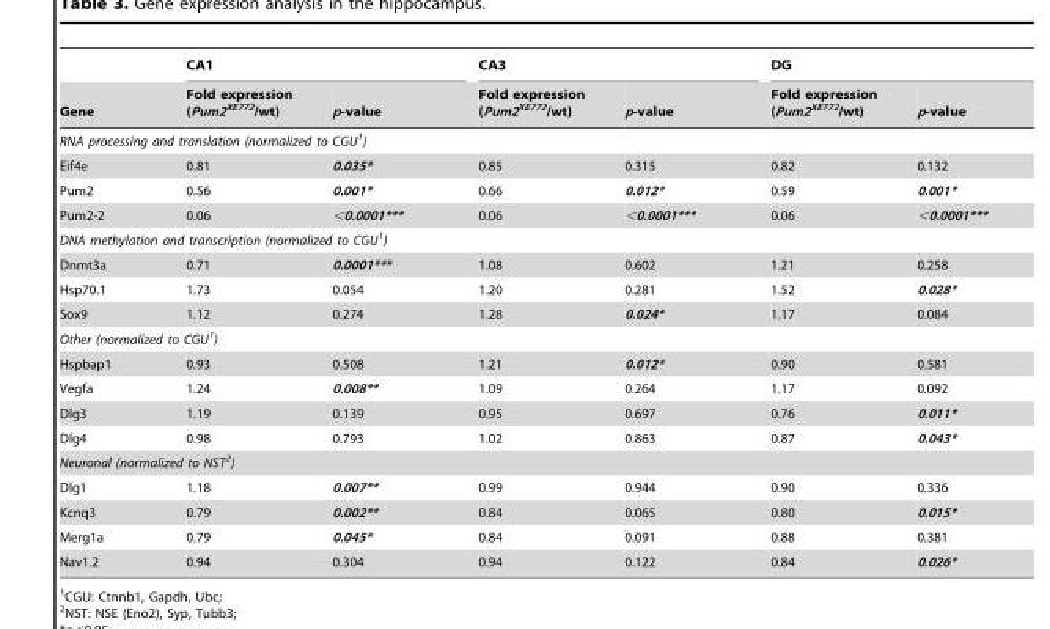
<table><thead><tr><td rowspan="2">Gene</td><td colspan="2">CA1</td><td colspan="2">CA3</td><td colspan="2">DG</td></tr><tr><td>Fold expression (Pum2<sup>XE772</sup>/wt)</td><td>p-value</td><td>Fold expression (Pum2<sup>XE772</sup>/wt)</td><td>p-value</td><td>Fold expression (Pum2<sup>XE772</sup>/wt)</td><td>p-value</td></tr></thead><tbody><tr><td colspan="7">RNA processing and translation (normalized to CGU1)</td></tr><tr><td>Eif4e</td><td>0.81</td><td>0.035*</td><td>0.85</td><td>0.315</td><td>0.82</td><td>0.132</td></tr><tr><td>Pum2</td><td>0.56</td><td>0.001*</td><td>0.66</td><td>0.012*</td><td>0.59</td><td>0.001*</td></tr><tr><td>Pum2-2</td><td>0.06</td><td>&lt;0.0001***</td><td>0.06</td><td>&lt;0.0001***</td><td>0.06</td><td>&lt;0.0001***</td></tr><tr><td colspan="7">DNA methylation and transcription (normalized to CGU1)</td></tr><tr><td>Dnmt3a</td><td>0.71</td><td>0.0001***</td><td>1.08</td><td>0.602</td><td>1.21</td><td>0.258</td></tr><tr><td>Hsp70.1</td><td>1.73</td><td>0.054</td><td>1.20</td><td>0.281</td><td>1.52</td><td>0.028*</td></tr><tr><td>Sox9</td><td>1.12</td><td>0.274</td><td>1.28</td><td>0.024*</td><td>1.17</td><td>0.084</td></tr><tr><td colspan="7">Other (normalized to CGU1)</td></tr><tr><td>Hspbap1</td><td>0.93</td><td>0.508</td><td>1.21</td><td>0.012*</td><td>0.90</td><td>0.581</td></tr><tr><td>Vegfa</td><td>1.24</td><td>0.008**</td><td>1.09</td><td>0.264</td><td>1.17</td><td>0.092</td></tr><tr><td>Dlg3</td><td>1.19</td><td>0.139</td><td>0.95</td><td>0.697</td><td>0.76</td><td>0.011*</td></tr><tr><td>Dlg4</td><td>0.98</td><td>0.793</td><td>1.02</td><td>0.863</td><td>0.87</td><td>0.043*</td></tr><tr><td colspan="7">Neuronal (normalized to NST2)</td></tr><tr><td>Dlg1</td><td>1.18</td><td>0.007**</td><td>0.99</td><td>0.944</td><td>0.90</td><td>0.336</td></tr><tr><td>Kcnq3</td><td>0.79</td><td>0.002**</td><td>0.84</td><td>0.065</td><td>0.80</td><td>0.015*</td></tr><tr><td>Merg1a</td><td>0.79</td><td>0.045*</td><td>0.84</td><td>0.091</td><td>0.88</td><td>0.381</td></tr><tr><td>Nav1.2</td><td>0.94</td><td>0.304</td><td>0.94</td><td>0.122</td><td>0.84</td><td>0.026*</td></tr></tbody></table>